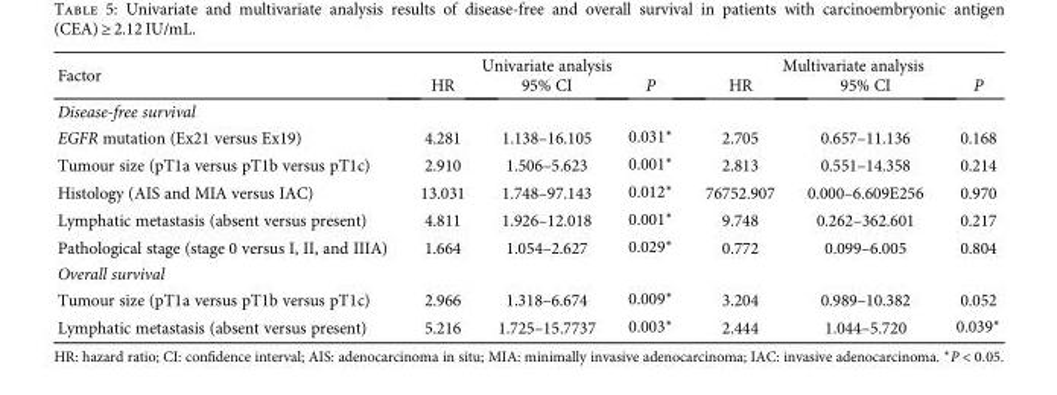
<table><thead><tr><td rowspan="2">Factor</td><td colspan="3">Univariate analysis</td><td colspan="3">Multivariate analysis</td></tr><tr><td>HR</td><td>95% CI</td><td>P</td><td>HR</td><td>95% CI</td><td>P</td></tr></thead><tbody><tr><td colspan="7">Disease-free survival</td></tr><tr><td>EGFR mutation (Ex21 versus Ex19)</td><td>4.281</td><td>1.138–16.105</td><td>0.031∗</td><td>2.705</td><td>0.657–11.136</td><td>0.168</td></tr><tr><td>Tumour size (pT1a versus pT1b versus pT1c)</td><td>2.910</td><td>1.506–5.623</td><td>0.001∗</td><td>2.813</td><td>0.551–14.358</td><td>0.214</td></tr><tr><td>Histology (AIS and MIA versus IAC)</td><td>13.031</td><td>1.748–97.143</td><td>0.012∗</td><td>76752.907</td><td>0.000–6.609E256</td><td>0.970</td></tr><tr><td>Lymphatic metastasis (absent versus present)</td><td>4.811</td><td>1.926–12.018</td><td>0.001∗</td><td>9.748</td><td>0.262–362.601</td><td>0.217</td></tr><tr><td>Pathological stage (stage 0 versus I, II, and IIIA)</td><td>1.664</td><td>1.054–2.627</td><td>0.029∗</td><td>0.772</td><td>0.099–6.005</td><td>0.804</td></tr><tr><td colspan="7">Overall survival</td></tr><tr><td>Tumour size (pT1a versus pT1b versus pT1c)</td><td>2.966</td><td>1.318–6.674</td><td>0.009∗</td><td>3.204</td><td>0.989–10.382</td><td>0.052</td></tr><tr><td>Lymphatic metastasis (absent versus present)</td><td>5.216</td><td>1.725–15.7737</td><td>0.003∗</td><td>2.444</td><td>1.044–5.720</td><td>0.039∗</td></tr></tbody></table>